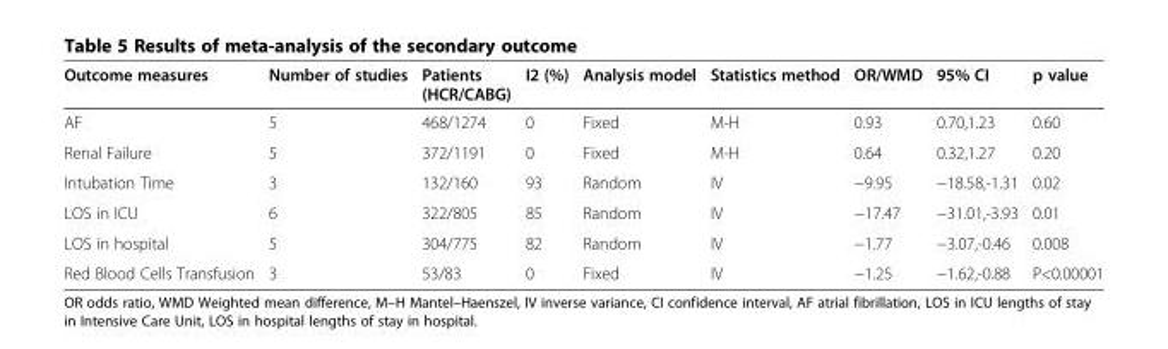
<table><thead><tr><td>Outcome measures</td><td>Number of studies</td><td>Patients (HCR/CABG)</td><td>I2 (%)</td><td>Analysis model</td><td>Statistics method</td><td>OR/WMD</td><td>95% CI</td><td>p value</td></tr></thead><tbody><tr><td>AF</td><td>5</td><td>468/1274</td><td>0</td><td>Fixed</td><td>M-H</td><td>0.93</td><td>0.70,1.23</td><td>0.60</td></tr><tr><td>Renal Failure</td><td>5</td><td>372/1191</td><td>0</td><td>Fixed</td><td>M-H</td><td>0.64</td><td>0.32,1.27</td><td>0.20</td></tr><tr><td>Intubation Time</td><td>3</td><td>132/160</td><td>93</td><td>Random</td><td>IV</td><td>−9.95</td><td>−18.58,-1.31</td><td>0.02</td></tr><tr><td>LOS in ICU</td><td>6</td><td>322/805</td><td>85</td><td>Random</td><td>IV</td><td>−17.47</td><td>−31.01,-3.93</td><td>0.01</td></tr><tr><td>LOS in hospital</td><td>5</td><td>304/775</td><td>82</td><td>Random</td><td>IV</td><td>−1.77</td><td>−3.07,-0.46</td><td>0.008</td></tr><tr><td>Red Blood Cells Transfusion</td><td>3</td><td>53/83</td><td>0</td><td>Fixed</td><td>IV</td><td>−1.25</td><td>−1.62,-0.88</td><td>P&lt;0.00001</td></tr></tbody></table>